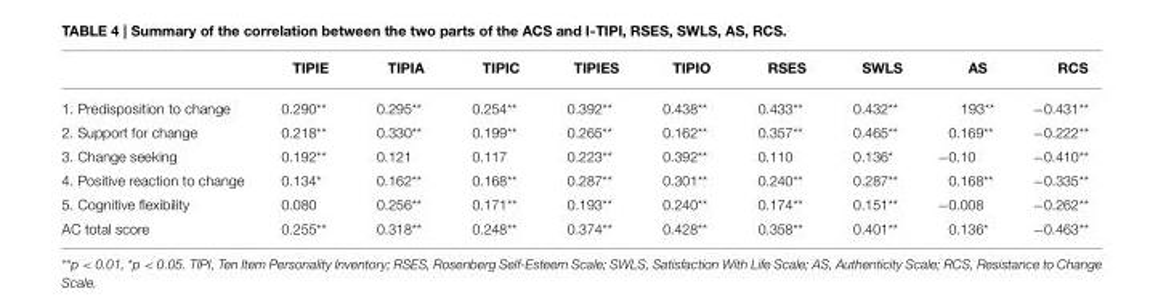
<table><thead><tr><td></td><td>TIPIE</td><td>TIPIA</td><td>TIPIC</td><td>TIPIES</td><td>TIPIO</td><td>RSES</td><td>SWLS</td><td>AS</td><td>RCS</td></tr></thead><tbody><tr><td>1. Predisposition to change</td><td>0.290**</td><td>0.295**</td><td>0.254**</td><td>0.392**</td><td>0.438**</td><td>0.433**</td><td>0.432**</td><td>193**</td><td>−0.431**</td></tr><tr><td>2. Support for change</td><td>0.218**</td><td>0.330**</td><td>0.199**</td><td>0.265**</td><td>0.162**</td><td>0.357**</td><td>0.465**</td><td>0.169**</td><td>−0.222**</td></tr><tr><td>3. Change seeking</td><td>0.192**</td><td>0.121</td><td>0.117</td><td>0.223**</td><td>0.392**</td><td>0.110</td><td>0.136*</td><td>−0.10</td><td>−0.410**</td></tr><tr><td>4. Positive reaction to change</td><td>0.134*</td><td>0.162**</td><td>0.168**</td><td>0.287**</td><td>0.301**</td><td>0.240**</td><td>0.287**</td><td>0.168**</td><td>−0.335**</td></tr><tr><td>5. Cognitive flexibility</td><td>0.080</td><td>0.256**</td><td>0.171**</td><td>0.193**</td><td>0.240**</td><td>0.174**</td><td>0.151**</td><td>−0.008</td><td>−0.262**</td></tr><tr><td>AC total score</td><td>0.255**</td><td>0.318**</td><td>0.248**</td><td>0.374**</td><td>0.428**</td><td>0.358**</td><td>0.401**</td><td>0.136*</td><td>−0.463**</td></tr></tbody></table>